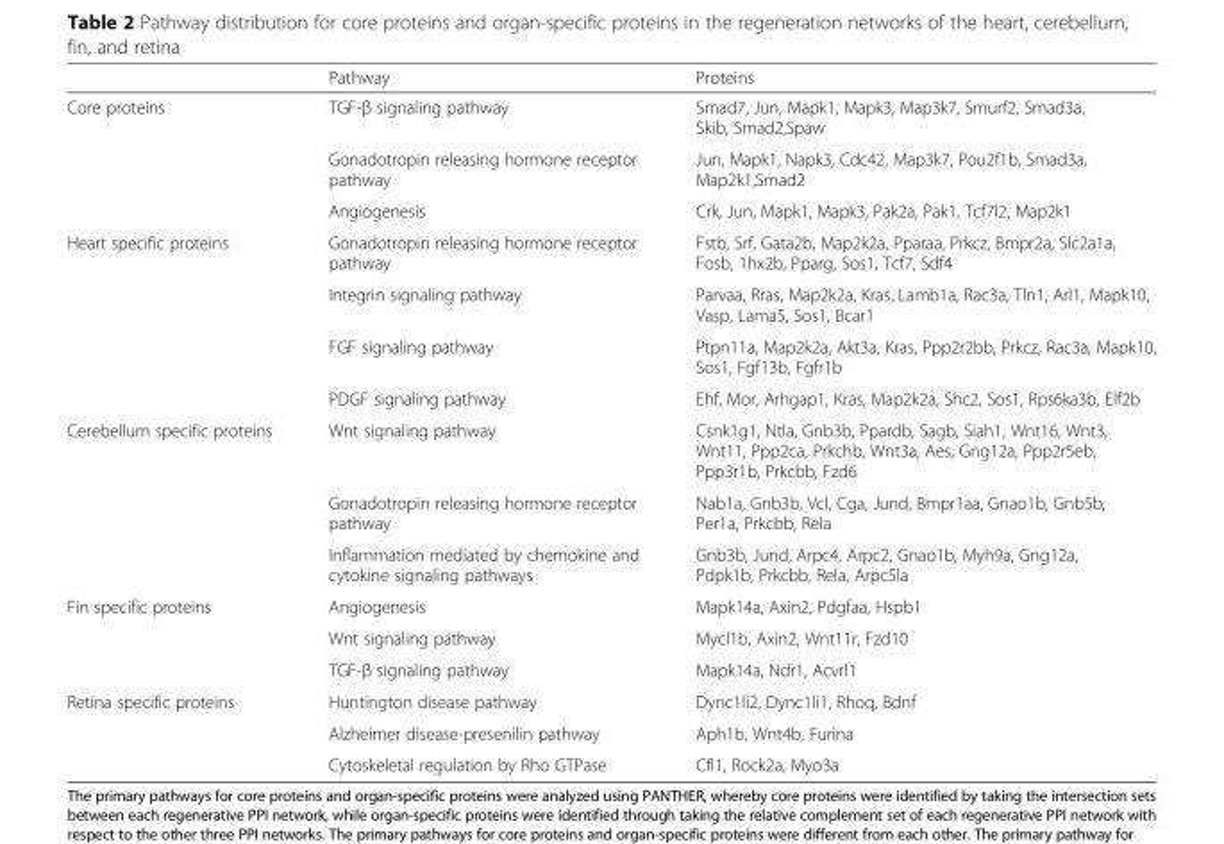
<table><thead><tr><td></td><td>Pathway</td><td>Proteins</td></tr></thead><tbody><tr><td rowspan="3">Core proteins</td><td>TGF-β signaling pathway</td><td>Smad7, Jun, Mapk1, Mapk3, Map3k7, Smurf2, Smad3a, Skib, Smad2,Spaw</td></tr><tr><td>Gonadotropin releasing hormone receptor pathway</td><td>Jun, Mapk1, Napk3, Cdc42, Map3k7, Pou2f1b, Smad3a, Map2k1,Smad2</td></tr><tr><td>Angiogenesis</td><td>Crk, Jun, Mapk1, Mapk3, Pak2a, Pak1, Tcf7l2, Map2k1</td></tr><tr><td rowspan="4">Heart specific proteins</td><td>Gonadotropin releasing hormone receptor pathway</td><td>Fstb, Srf, Gata2b, Map2k2a, Pparaa, Prkcz, Bmpr2a, Slc2a1a, Fosb, 1hx2b, Pparg, Sos1, Tcf7, Sdf4</td></tr><tr><td>Integrin signaling pathway</td><td>Parvaa, Rras, Map2k2a, Kras, Lamb1a, Rac3a, Tln1, Arl1, Mapk10, Vasp, Lama5, Sos1, Bcar1</td></tr><tr><td>FGF signaling pathway</td><td>Ptpn11a, Map2k2a, Akt3a, Kras, Ppp2r2bb, Prkcz, Rac3a, Mapk10, Sos1, Fgf13b, Fgfr1b</td></tr><tr><td>PDGF signaling pathway</td><td>Ehf, Mor, Arhgap1, Kras, Map2k2a, Shc2, Sos1, Rps6ka3b, Elf2b</td></tr><tr><td rowspan="3">Cerebellum specific proteins</td><td>Wnt signaling pathway</td><td>Csnk1g1, Ntla, Gnb3b, Ppardb, Sagb, Siah1, Wnt16, Wnt3, Wnt11, Ppp2ca, Prkchb, Wnt3a, Aes, Gng12a, Ppp2r5eb, Ppp3r1b, Prkcbb, Fzd6</td></tr><tr><td>Gonadotropin releasing hormone receptor pathway</td><td>Nab1a, Gnb3b, Vcl, Cga, Jund, Bmpr1aa, Gnao1b, Gnb5b, Per1a, Prkcbb, Rela</td></tr><tr><td>Inflammation mediated by chemokine and cytokine signaling pathways</td><td>Gnb3b, Jund, Arpc4, Arpc2, Gnao1b, Myh9a, Gng12a, Pdpk1b, Prkcbb, Rela, Arpc5la</td></tr><tr><td rowspan="3">Fin specific proteins</td><td>Angiogenesis</td><td>Mapk14a, Axin2, Pdgfaa, Hspb1</td></tr><tr><td>Wnt signaling pathway</td><td>Mycl1b, Axin2, Wnt11r, Fzd10</td></tr><tr><td>TGF-β signaling pathway</td><td>Mapk14a, Ndr1, Acvrl1</td></tr><tr><td rowspan="3">Retina specific proteins</td><td>Huntington disease pathway</td><td>Dync1li2, Dync1li1, Rhoq, Bdnf</td></tr><tr><td>Alzheimer disease-presenilin pathway</td><td>Aph1b, Wnt4b, Furina</td></tr><tr><td>Cytoskeletal regulation by Rho GTPase</td><td>Cfl1, Rock2a, Myo3a</td></tr></tbody></table>